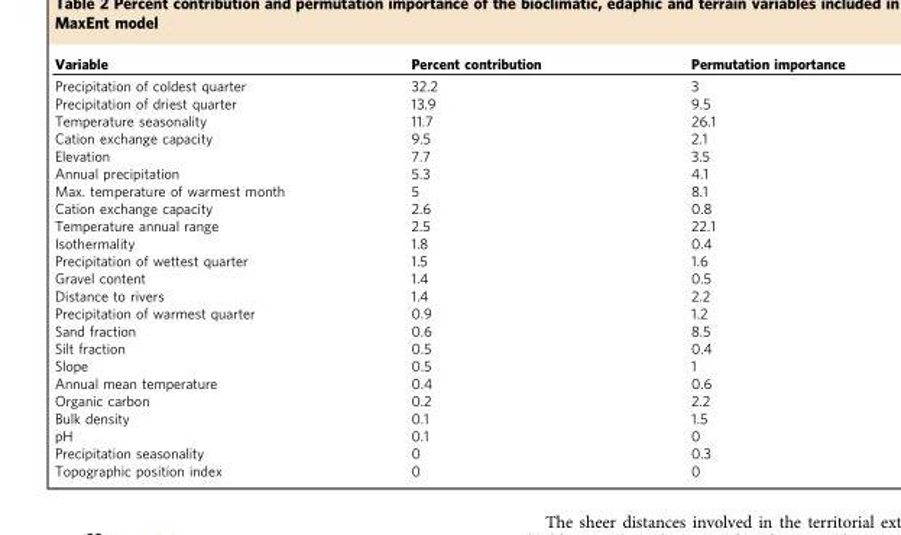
<table><thead><tr><td>Variable</td><td>Percent contribution</td><td>Permutation importance</td></tr></thead><tbody><tr><td>Precipitation of coldest quarter</td><td>32.2</td><td>3</td></tr><tr><td>Precipitation of driest quarter</td><td>13.9</td><td>9.5</td></tr><tr><td>Temperature seasonality</td><td>11.7</td><td>26.1</td></tr><tr><td>Cation exchange capacity</td><td>9.5</td><td>2.1</td></tr><tr><td>Elevation</td><td>7.7</td><td>3.5</td></tr><tr><td>Annual precipitation</td><td>5.3</td><td>4.1</td></tr><tr><td>Max. temperature of warmest month</td><td>5</td><td>8.1</td></tr><tr><td>Cation exchange capacity</td><td>2.6</td><td>0.8</td></tr><tr><td>Temperature annual range</td><td>2.5</td><td>22.1</td></tr><tr><td>Isothermality</td><td>1.8</td><td>0.4</td></tr><tr><td>Precipitation of wettest quarter</td><td>1.5</td><td>1.6</td></tr><tr><td>Gravel content</td><td>1.4</td><td>0.5</td></tr><tr><td>Distance to rivers</td><td>1.4</td><td>2.2</td></tr><tr><td>Precipitation of warmest quarter</td><td>0.9</td><td>1.2</td></tr><tr><td>Sand fraction</td><td>0.6</td><td>8.5</td></tr><tr><td>Silt fraction</td><td>0.5</td><td>0.4</td></tr><tr><td>Slope</td><td>0.5</td><td>1</td></tr><tr><td>Annual mean temperature</td><td>0.4</td><td>0.6</td></tr><tr><td>Organic carbon</td><td>0.2</td><td>2.2</td></tr><tr><td>Bulk density</td><td>0.1</td><td>1.5</td></tr><tr><td>pH</td><td>0.1</td><td>0</td></tr><tr><td>Precipitation seasonality</td><td>0</td><td>0.3</td></tr><tr><td>Topographic position index</td><td>0</td><td>0</td></tr></tbody></table>